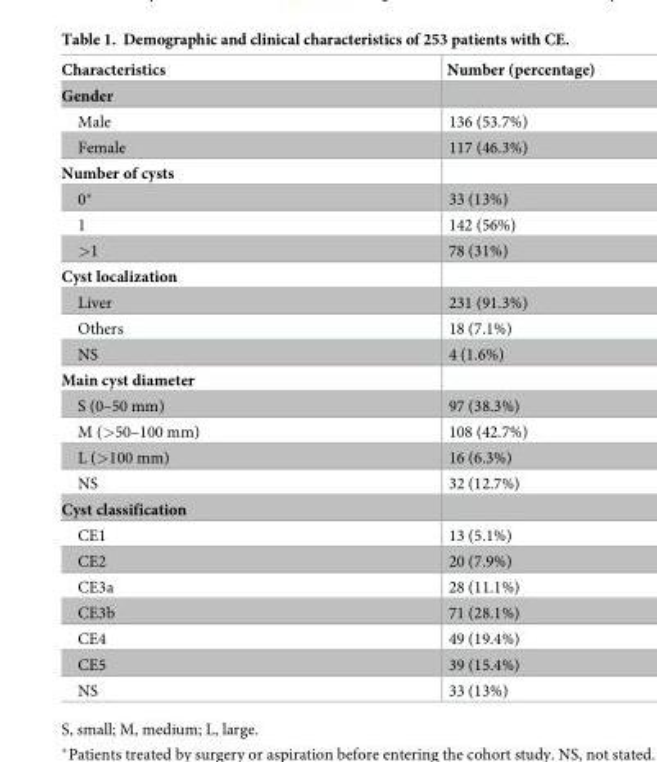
<table><thead><tr><td>Characteristics</td><td>Number (percentage)</td></tr></thead><tbody><tr><td colspan="2">Gender</td></tr><tr><td>Male</td><td>136 (53.7%)</td></tr><tr><td>Female</td><td>117 (46.3%)</td></tr><tr><td colspan="2">Number of cysts</td></tr><tr><td>0*</td><td>33 (13%)</td></tr><tr><td>1</td><td>142 (56%)</td></tr><tr><td>&gt;1</td><td>78 (31%)</td></tr><tr><td colspan="2">Cyst localization</td></tr><tr><td>Liver</td><td>231 (91.3%)</td></tr><tr><td>Others</td><td>18 (7.1%)</td></tr><tr><td>NS</td><td>4 (1.6%)</td></tr><tr><td colspan="2">Main cyst diameter</td></tr><tr><td>S (0–50 mm)</td><td>97 (38.3%)</td></tr><tr><td>M (&gt;50–100 mm)</td><td>108 (42.7%)</td></tr><tr><td>L (&gt;100 mm)</td><td>16 (6.3%)</td></tr><tr><td>NS</td><td>32 (12.7%)</td></tr><tr><td colspan="2">Cyst classification</td></tr><tr><td>CE1</td><td>13 (5.1%)</td></tr><tr><td>CE2</td><td>20 (7.9%)</td></tr><tr><td>CE3a</td><td>28 (11.1%)</td></tr><tr><td>CE3b</td><td>71 (28.1%)</td></tr><tr><td>CE4</td><td>49 (19.4%)</td></tr><tr><td>CE5</td><td>39 (15.4%)</td></tr><tr><td>NS</td><td>33 (13%)</td></tr></tbody></table>